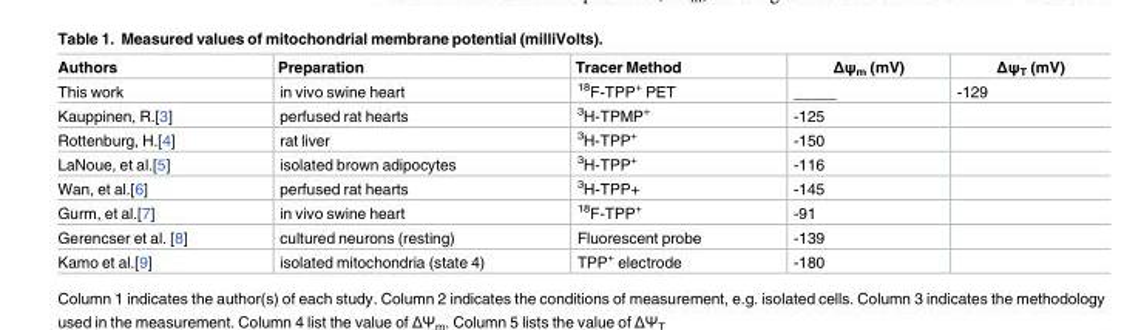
<table><thead><tr><td>Authors</td><td>Preparation</td><td>Tracer Method</td><td>Δψ<sub>m</sub> (mV)</td><td>Δψ<sub>T</sub> (mV)</td></tr></thead><tbody><tr><td>This work</td><td>in vivo swine heart</td><td><sup>18</sup>F-TPP<sup>+</sup> PET</td><td>_____</td><td>-129</td></tr><tr><td>Kauppinen, R.[3]</td><td>perfused rat hearts</td><td><sup>3</sup>H-TPMP<sup>+</sup></td><td>-125</td><td></td></tr><tr><td>Rottenburg, H.[4]</td><td>rat liver</td><td><sup>3</sup>H-TPP<sup>+</sup></td><td>-150</td><td></td></tr><tr><td>LaNoue, et al.[5]</td><td>isolated brown adipocytes</td><td><sup>3</sup>H-TPP<sup>+</sup></td><td>-116</td><td></td></tr><tr><td>Wan, et al.[6]</td><td>perfused rat hearts</td><td><sup>3</sup>H-TPP+</td><td>-145</td><td></td></tr><tr><td>Gurm, et al.[7]</td><td>in vivo swine heart</td><td><sup>18</sup>F-TPP<sup>+</sup></td><td>-91</td><td></td></tr><tr><td>Gerencser et al. [8]</td><td>cultured neurons (resting)</td><td>Fluorescent probe</td><td>-139</td><td></td></tr><tr><td>Kamo et al.[9]</td><td>isolated mitochondria (state 4)</td><td>TPP<sup>+</sup> electrode</td><td>-180</td><td></td></tr></tbody></table>